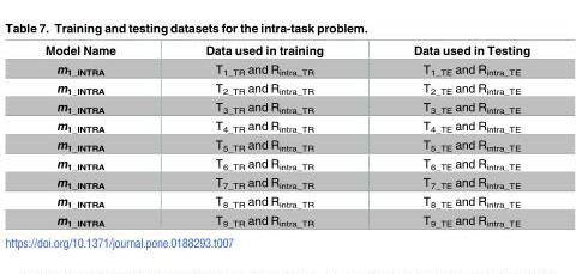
<table><thead><tr><td>Model Name</td><td>Data used in training</td><td>Data used in Testing</td></tr></thead><tbody><tr><td>m<sub>1_INTRA</sub></td><td>T<sub>1_TR</sub> and R<sub>intra_TR</sub></td><td>T<sub>1_TE</sub> and R<sub>intra_TE</sub></td></tr><tr><td>m<sub>1_INTRA</sub></td><td>T<sub>2_TR</sub> and R<sub>intra_TR</sub></td><td>T<sub>2_TE</sub> and R<sub>intra_TE</sub></td></tr><tr><td>m<sub>1_INTRA</sub></td><td>T<sub>3_TR</sub> and R<sub>intra_TR</sub></td><td>T<sub>3_TE</sub> and R<sub>intra_TE</sub></td></tr><tr><td>m<sub>1_INTRA</sub></td><td>T<sub>4_TR</sub> and R<sub>intra_TR</sub></td><td>T<sub>4_TE</sub> and R<sub>intra_TE</sub></td></tr><tr><td>m<sub>1_INTRA</sub></td><td>T<sub>5_TR</sub> and R<sub>intra_TR</sub></td><td>T<sub>5_TE</sub> and R<sub>intra_TE</sub></td></tr><tr><td>m<sub>1_INTRA</sub></td><td>T<sub>6_TR</sub> and R<sub>intra_TR</sub></td><td>T<sub>6_TE</sub> and R<sub>intra_TE</sub></td></tr><tr><td>m<sub>1_INTRA</sub></td><td>T<sub>7_TR</sub> and R<sub>intra_TR</sub></td><td>T<sub>7_TE</sub> and R<sub>intra_TE</sub></td></tr><tr><td>m<sub>1_INTRA</sub></td><td>T<sub>8_TR</sub> and R<sub>intra_TR</sub></td><td>T<sub>8_TE</sub> and R<sub>intra_TE</sub></td></tr><tr><td>m<sub>1_INTRA</sub></td><td>T<sub>9_TR</sub> and R<sub>intra_TR</sub></td><td>T<sub>9_TE</sub> and R<sub>intra_TE</sub></td></tr></tbody></table>